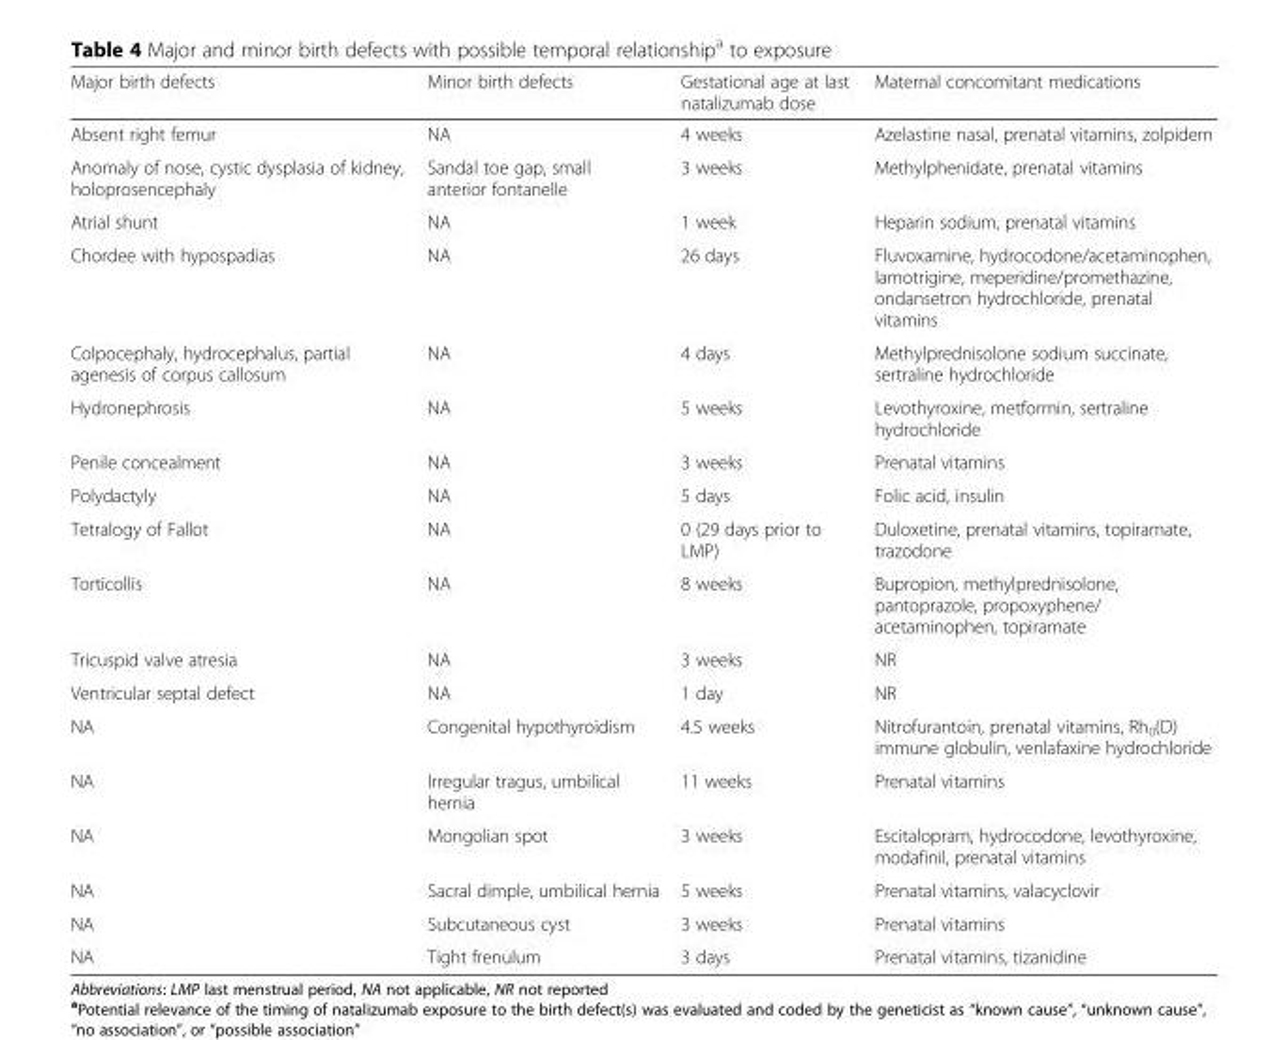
<table><thead><tr><td>Major birth defects</td><td>Minor birth defects</td><td>Gestational age at last natalizumab dose</td><td>Maternal concomitant medications</td></tr></thead><tbody><tr><td>Absent right femur</td><td>NA</td><td>4 weeks</td><td>Azelastine nasal, prenatal vitamins, zolpidem</td></tr><tr><td>Anomaly of nose, cystic dysplasia of kidney, holoprosencephaly</td><td>Sandal toe gap, small anterior fontanelle</td><td>3 weeks</td><td>Methylphenidate, prenatal vitamins</td></tr><tr><td>Atrial shunt</td><td>NA</td><td>1 week</td><td>Heparin sodium, prenatal vitamins</td></tr><tr><td>Chordee with hypospadias</td><td>NA</td><td>26 days</td><td>Fluvoxamine, hydrocodone/acetaminophen, lamotrigine, meperidine/promethazine, ondansetron hydrochloride, prenatal vitamins</td></tr><tr><td>Colpocephaly, hydrocephalus, partial agenesis of corpus callosum</td><td>NA</td><td>4 days</td><td>Methylprednisolone sodium succinate, sertraline hydrochloride</td></tr><tr><td>Hydronephrosis</td><td>NA</td><td>5 weeks</td><td>Levothyroxine, metformin, sertraline hydrochloride</td></tr><tr><td>Penile concealment</td><td>NA</td><td>3 weeks</td><td>Prenatal vitamins</td></tr><tr><td>Polydactyly</td><td>NA</td><td>5 days</td><td>Folic acid, insulin</td></tr><tr><td>Tetralogy of Fallot</td><td>NA</td><td>0 (29 days prior to LMP)</td><td>Duloxetine, prenatal vitamins, topiramate, trazodone</td></tr><tr><td>Torticollis</td><td>NA</td><td>8 weeks</td><td>Bupropion, methylprednisolone, pantoprazole, propoxyphene/ acetaminophen, topiramate</td></tr><tr><td>Tricuspid valve atresia</td><td>NA</td><td>3 weeks</td><td>NR</td></tr><tr><td>Ventricular septal defect</td><td>NA</td><td>1 day</td><td>NR</td></tr><tr><td>NA</td><td>Congenital hypothyroidism</td><td>4.5 weeks</td><td>Nitrofurantoin, prenatal vitamins, Rh<sub>0</sub>(D) immune globulin, venlafaxine hydrochloride</td></tr><tr><td>NA</td><td>Irregular tragus, umbilical hernia</td><td>11 weeks</td><td>Prenatal vitamins</td></tr><tr><td>NA</td><td>Mongolian spot</td><td>3 weeks</td><td>Escitalopram, hydrocodone, levothyroxine, modafinil, prenatal vitamins</td></tr><tr><td>NA</td><td>Sacral dimple, umbilical hernia</td><td>5 weeks</td><td>Prenatal vitamins, valacyclovir</td></tr><tr><td>NA</td><td>Subcutaneous cyst</td><td>3 weeks</td><td>Prenatal vitamins</td></tr><tr><td>NA</td><td>Tight frenulum</td><td>3 days</td><td>Prenatal vitamins, tizanidine</td></tr></tbody></table>